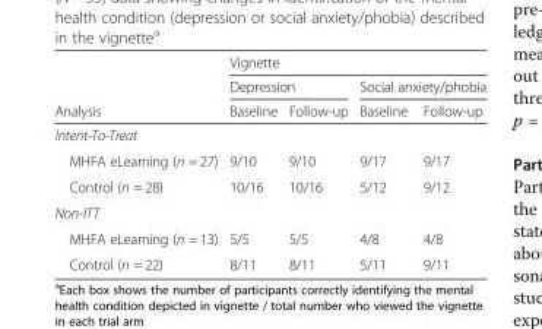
<table><thead><tr><td rowspan="3">Analysis</td><td colspan="4">Vignette</td></tr><tr><td colspan="2">Depression</td><td colspan="2">Social anxiety/phobia</td></tr><tr><td>Baseline</td><td>Follow-up</td><td>Baseline</td><td>Follow-up</td></tr></thead><tbody><tr><td colspan="5">Intent-To-Treat</td></tr><tr><td>MHFA eLearning (n = 27)</td><td>9/10</td><td>9/10</td><td>9/17</td><td>9/17</td></tr><tr><td>Control (n = 28)</td><td>10/16</td><td>10/16</td><td>5/12</td><td>9/12</td></tr><tr><td colspan="5">Non-ITT</td></tr><tr><td>MHFA eLearning (n = 13)</td><td>5/5</td><td>5/5</td><td>4/8</td><td>4/8</td></tr><tr><td>Control (n = 22)</td><td>8/11</td><td>8/11</td><td>5/11</td><td>9/11</td></tr></tbody></table>